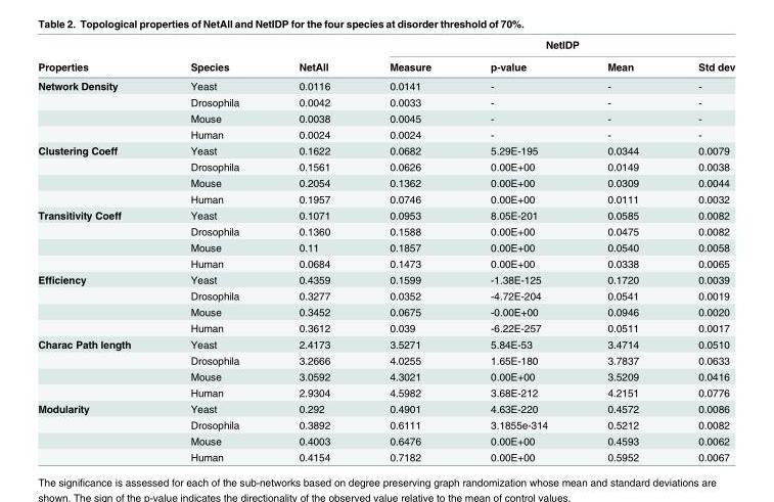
<table><thead><tr><td rowspan="2">Properties</td><td rowspan="2">Species</td><td rowspan="2">NetAll</td><td colspan="4">NetIDP</td></tr><tr><td>Measure</td><td>p-value</td><td>Mean</td><td>Std dev</td></tr></thead><tbody><tr><td rowspan="4">Network Density</td><td>Yeast</td><td>0.0116</td><td>0.0141</td><td>-</td><td>-</td><td>-</td></tr><tr><td>Drosophila</td><td>0.0042</td><td>0.0033</td><td>-</td><td>-</td><td>-</td></tr><tr><td>Mouse</td><td>0.0038</td><td>0.0045</td><td>-</td><td>-</td><td>-</td></tr><tr><td>Human</td><td>0.0024</td><td>0.0024</td><td>-</td><td>-</td><td>-</td></tr><tr><td rowspan="4">Clustering Coeff</td><td>Yeast</td><td>0.1622</td><td>0.0682</td><td>5.29E-195</td><td>0.0344</td><td>0.0079</td></tr><tr><td>Drosophila</td><td>0.1561</td><td>0.0626</td><td>0.00E+00</td><td>0.0149</td><td>0.0038</td></tr><tr><td>Mouse</td><td>0.2054</td><td>0.1362</td><td>0.00E+00</td><td>0.0309</td><td>0.0044</td></tr><tr><td>Human</td><td>0.1957</td><td>0.0746</td><td>0.00E+00</td><td>0.0111</td><td>0.0032</td></tr><tr><td rowspan="4">Transitivity Coeff</td><td>Yeast</td><td>0.1071</td><td>0.0953</td><td>8.05E-201</td><td>0.0585</td><td>0.0082</td></tr><tr><td>Drosophila</td><td>0.1360</td><td>0.1588</td><td>0.00E+00</td><td>0.0475</td><td>0.0082</td></tr><tr><td>Mouse</td><td>0.11</td><td>0.1857</td><td>0.00E+00</td><td>0.0540</td><td>0.0058</td></tr><tr><td>Human</td><td>0.0684</td><td>0.1473</td><td>0.00E+00</td><td>0.0338</td><td>0.0065</td></tr><tr><td rowspan="4">Efficiency</td><td>Yeast</td><td>0.4359</td><td>0.1599</td><td>-1.38E-125</td><td>0.1720</td><td>0.0039</td></tr><tr><td>Drosophila</td><td>0.3277</td><td>0.0352</td><td>-4.72E-204</td><td>0.0541</td><td>0.0019</td></tr><tr><td>Mouse</td><td>0.3452</td><td>0.0675</td><td>-0.00E+00</td><td>0.0946</td><td>0.0020</td></tr><tr><td>Human</td><td>0.3612</td><td>0.039</td><td>-6.22E-257</td><td>0.0511</td><td>0.0017</td></tr><tr><td rowspan="4">Charac Path length</td><td>Yeast</td><td>2.4173</td><td>3.5271</td><td>5.84E-53</td><td>3.4714</td><td>0.0510</td></tr><tr><td>Drosophila</td><td>3.2666</td><td>4.0255</td><td>1.65E-180</td><td>3.7837</td><td>0.0633</td></tr><tr><td>Mouse</td><td>3.0592</td><td>4.3021</td><td>0.00E+00</td><td>3.5209</td><td>0.0416</td></tr><tr><td>Human</td><td>2.9304</td><td>4.5982</td><td>3.68E-212</td><td>4.2151</td><td>0.0776</td></tr><tr><td rowspan="4">Modularity</td><td>Yeast</td><td>0.292</td><td>0.4901</td><td>4.63E-220</td><td>0.4572</td><td>0.0086</td></tr><tr><td>Drosophila</td><td>0.3892</td><td>0.6111</td><td>3.1855e-314</td><td>0.5212</td><td>0.0082</td></tr><tr><td>Mouse</td><td>0.4003</td><td>0.6476</td><td>0.00E+00</td><td>0.4593</td><td>0.0062</td></tr><tr><td>Human</td><td>0.4154</td><td>0.7182</td><td>0.00E+00</td><td>0.5952</td><td>0.0067</td></tr></tbody></table>